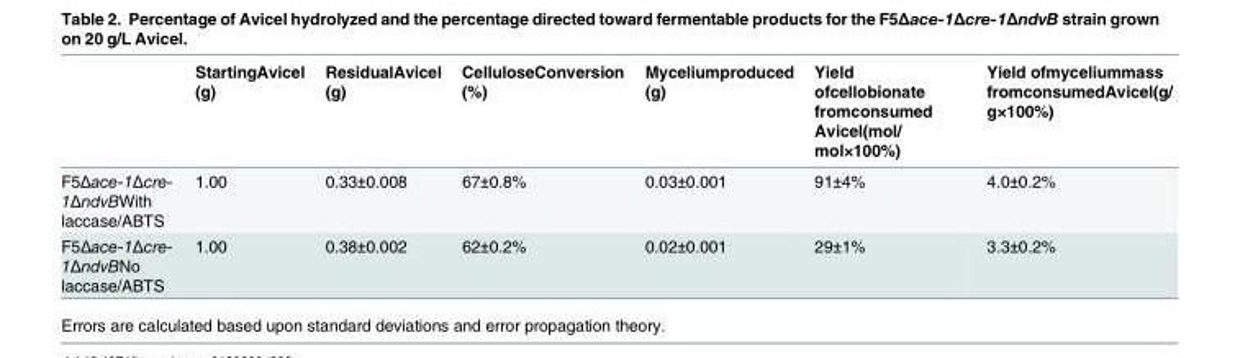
<table><thead><tr><td></td><td>StartingAvicel (g)</td><td>ResidualAvicel (g)</td><td>CelluloseConversion (%)</td><td>Myceliumproduced (g)</td><td>Yield ofcellobionate fromconsumed Avicel(mol/ mol×100%)</td><td>Yield ofmyceliummass fromconsumedAvicel(g/ g×100%)</td></tr></thead><tbody><tr><td>F5Δace-1Δcre- 1ΔndvBWith laccase/ABTS</td><td>1.00</td><td>0.33±0.008</td><td>67±0.8%</td><td>0.03±0.001</td><td>91±4%</td><td>4.0±0.2%</td></tr><tr><td>F5Δace-1Δcre- 1ΔndvBNo laccase/ABTS</td><td>1.00</td><td>0.38±0.002</td><td>62±0.2%</td><td>0.02±0.001</td><td>29±1%</td><td>3.3±0.2%</td></tr></tbody></table>